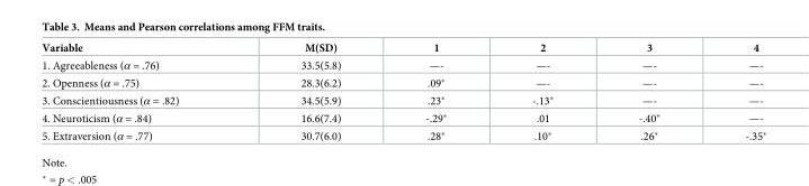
<table><thead><tr><td>Variable</td><td>M(SD)</td><td>1</td><td>2</td><td>3</td><td>4</td></tr></thead><tbody><tr><td>1. Agreeableness (α = .76)</td><td>33.5(5.8)</td><td>—-</td><td>—-</td><td>—-</td><td>—-</td></tr><tr><td>2. Openness (α = .75)</td><td>28.3(6.2)</td><td>.09*</td><td>—-</td><td>—-</td><td>—-</td></tr><tr><td>3. Conscientiousness (α = .82)</td><td>34.5(5.9)</td><td>.23*</td><td>-.13*</td><td>—-</td><td>—-</td></tr><tr><td>4. Neuroticism (α = .84)</td><td>16.6(7.4)</td><td>-.29*</td><td>.01</td><td>-.40*</td><td>—-</td></tr><tr><td>5. Extraversion (α = .77)</td><td>30.7(6.0)</td><td>.28*</td><td>.10*</td><td>.26*</td><td>-.35*</td></tr></tbody></table>